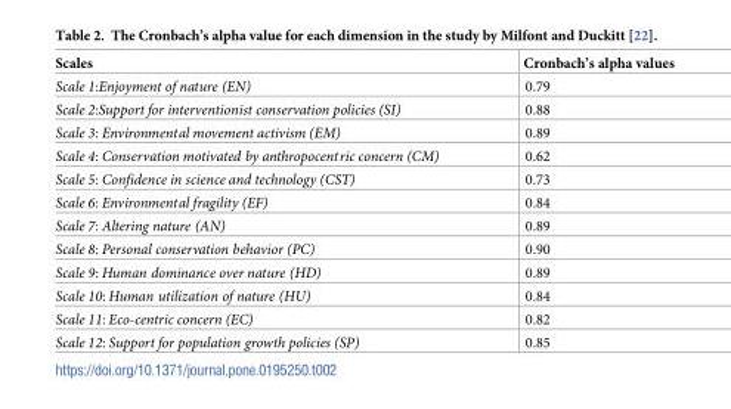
<table><thead><tr><td>Scales</td><td>Cronbach’s alpha values</td></tr></thead><tbody><tr><td>Scale 1:Enjoyment of nature (EN)</td><td>0.79</td></tr><tr><td>Scale 2:Support for interventionist conservation policies (SI)</td><td>0.88</td></tr><tr><td>Scale 3: Environmental movement activism (EM)</td><td>0.89</td></tr><tr><td>Scale 4: Conservation motivated by anthropocentric concern (CM)</td><td>0.62</td></tr><tr><td>Scale 5: Confidence in science and technology (CST)</td><td>0.73</td></tr><tr><td>Scale 6: Environmental fragility (EF)</td><td>0.84</td></tr><tr><td>Scale 7: Altering nature (AN)</td><td>0.89</td></tr><tr><td>Scale 8: Personal conservation behavior (PC)</td><td>0.90</td></tr><tr><td>Scale 9: Human dominance over nature (HD)</td><td>0.89</td></tr><tr><td>Scale 10: Human utilization of nature (HU)</td><td>0.84</td></tr><tr><td>Scale 11: Eco-centric concern (EC)</td><td>0.82</td></tr><tr><td>Scale 12: Support for population growth policies (SP)</td><td>0.85</td></tr></tbody></table>